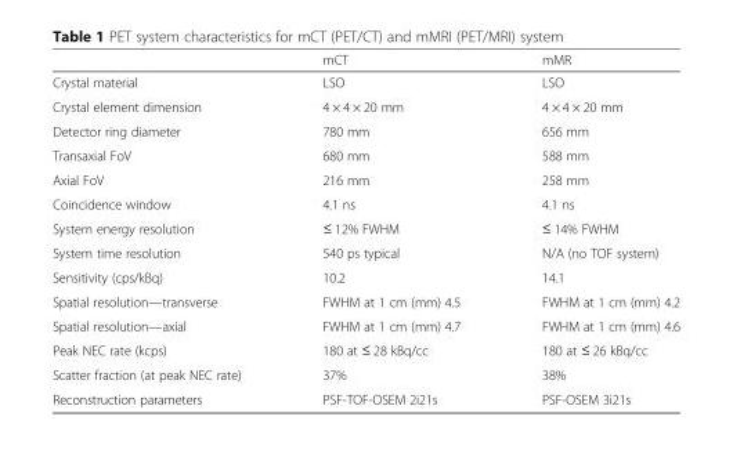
<table><thead><tr><td></td><td>mCT</td><td>mMR</td></tr></thead><tbody><tr><td>Crystal material</td><td>LSO</td><td>LSO</td></tr><tr><td>Crystal element dimension</td><td>4 × 4 × 20 mm</td><td>4 × 4 × 20 mm</td></tr><tr><td>Detector ring diameter</td><td>780 mm</td><td>656 mm</td></tr><tr><td>Transaxial FoV</td><td>680 mm</td><td>588 mm</td></tr><tr><td>Axial FoV</td><td>216 mm</td><td>258 mm</td></tr><tr><td>Coincidence window</td><td>4.1 ns</td><td>4.1 ns</td></tr><tr><td>System energy resolution</td><td>≤ 12% FWHM</td><td>≤ 14% FWHM</td></tr><tr><td>System time resolution</td><td>540 ps typical</td><td>N/A (no TOF system)</td></tr><tr><td>Sensitivity (cps/kBq)</td><td>10.2</td><td>14.1</td></tr><tr><td>Spatial resolution—transverse</td><td>FWHM at 1 cm (mm) 4.5</td><td>FWHM at 1 cm (mm) 4.2</td></tr><tr><td>Spatial resolution—axial</td><td>FWHM at 1 cm (mm) 4.7</td><td>FWHM at 1 cm (mm) 4.6</td></tr><tr><td>Peak NEC rate (kcps)</td><td>180 at ≤ 28 kBq/cc</td><td>180 at ≤ 26 kBq/cc</td></tr><tr><td>Scatter fraction (at peak NEC rate)</td><td>37%</td><td>38%</td></tr><tr><td>Reconstruction parameters</td><td>PSF-TOF-OSEM 2i21s</td><td>PSF-OSEM 3i21s</td></tr></tbody></table>